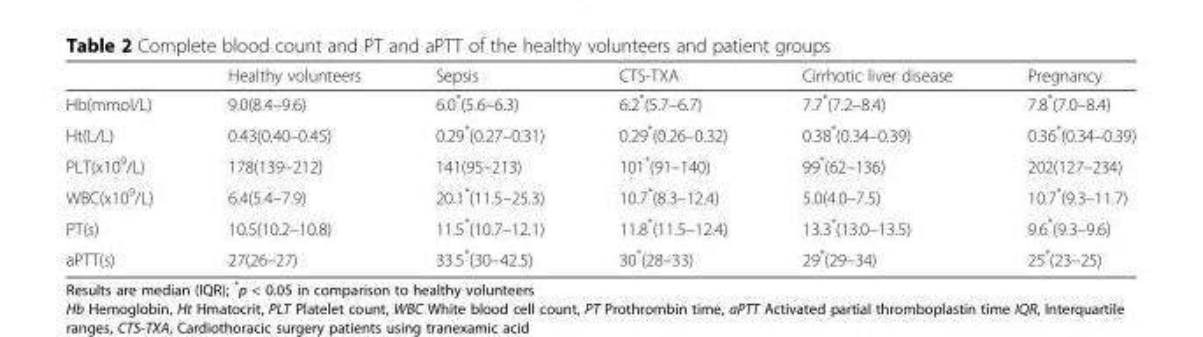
<table><thead><tr><td></td><td>Healthy volunteers</td><td>Sepsis</td><td>CTS-TXA</td><td>Cirrhotic liver disease</td><td>Pregnancy</td></tr></thead><tbody><tr><td>Hb(mmol/L)</td><td>9.0(8.4–9.6)</td><td>6.0*(5.6–6.3)</td><td>6.2*(5.7–6.7)</td><td>7.7*(7.2–8.4)</td><td>7.8*(7.0–8.4)</td></tr><tr><td>Ht(L/L)</td><td>0.43(0.40–0.45)</td><td>0.29*(0.27–0.31)</td><td>0.29*(0.26–0.32)</td><td>0.38*(0.34–0.39)</td><td>0.36*(0.34–0.39)</td></tr><tr><td>PLT(x10<sup>9</sup>/L)</td><td>178(139–212)</td><td>141(95–213)</td><td>101*(91–140)</td><td>99*(62–136)</td><td>202(127–234)</td></tr><tr><td>WBC(x10<sup>9</sup>/L)</td><td>6.4(5.4–7.9)</td><td>20.1*(11.5–25.3)</td><td>10.7*(8.3–12.4)</td><td>5.0(4.0–7.5)</td><td>10.7*(9.3–11.7)</td></tr><tr><td>PT(s)</td><td>10.5(10.2–10.8)</td><td>11.5*(10.7–12.1)</td><td>11.8*(11.5–12.4)</td><td>13.3*(13.0–13.5)</td><td>9.6*(9.3–9.6)</td></tr><tr><td>aPTT(s)</td><td>27(26–27)</td><td>33.5*(30–42.5)</td><td>30*(28–33)</td><td>29*(29–34)</td><td>25*(23–25)</td></tr></tbody></table>